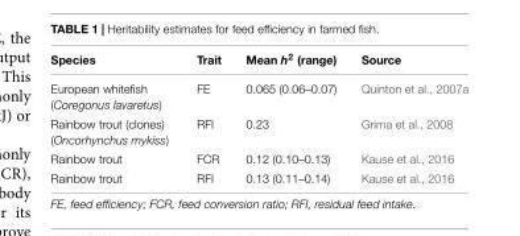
<table><thead><tr><td>Species</td><td>Trait</td><td>Mean h<sup>2</sup> (range)</td><td>Source</td></tr></thead><tbody><tr><td>European whitefish (Coregonus lavaretus)</td><td>FE</td><td>0.065 (0.06–0.07)</td><td>Quinton et al., 2007a</td></tr><tr><td>Rainbow trout (clones) (Oncorhynchus mykiss)</td><td>RFI</td><td>0.23</td><td>Grima et al., 2008</td></tr><tr><td>Rainbow trout</td><td>FCR</td><td>0.12 (0.10–0.13)</td><td>Kause et al., 2016</td></tr><tr><td>Rainbow trout</td><td>RFI</td><td>0.13 (0.11–0.14)</td><td>Kause et al., 2016</td></tr></tbody></table>